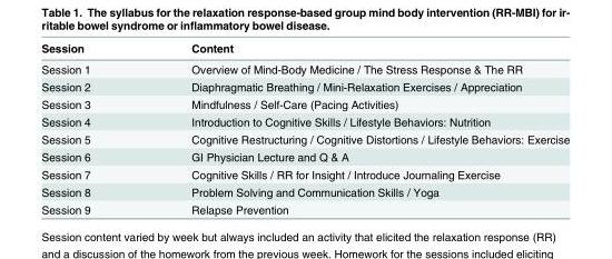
<table><thead><tr><td>Session</td><td>Content</td></tr></thead><tbody><tr><td>Session 1</td><td>Overview of Mind-Body Medicine / The Stress Response &amp; The RR</td></tr><tr><td>Session 2</td><td>Diaphragmatic Breathing / Mini-Relaxation Exercises / Appreciation</td></tr><tr><td>Session 3</td><td>Mindfulness / Self-Care (Pacing Activities)</td></tr><tr><td>Session 4</td><td>Introduction to Cognitive Skills / Lifestyle Behaviors: Nutrition</td></tr><tr><td>Session 5</td><td>Cognitive Restructuring / Cognitive Distortions / Lifestyle Behaviors: Exercise</td></tr><tr><td>Session 6</td><td>GI Physician Lecture and Q &amp; A</td></tr><tr><td>Session 7</td><td>Cognitive Skills / RR for Insight / Introduce Journaling Exercise</td></tr><tr><td>Session 8</td><td>Problem Solving and Communication Skills / Yoga</td></tr><tr><td>Session 9</td><td>Relapse Prevention</td></tr></tbody></table>